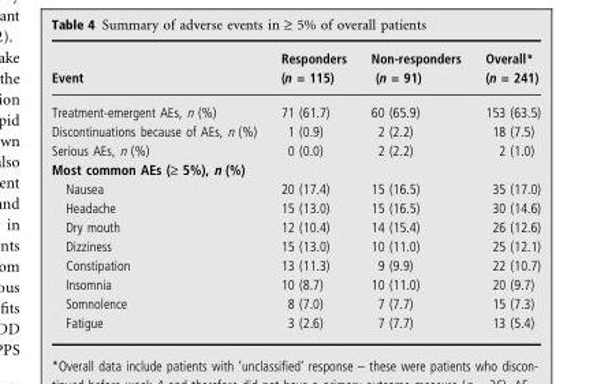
<table><thead><tr><td>Event</td><td>Responders (n = 115)</td><td>Non-responders (n = 91)</td><td>Overall* (n = 241)</td></tr></thead><tbody><tr><td>Treatment-emergent AEs, n (%)</td><td>71 (61.7)</td><td>60 (65.9)</td><td>153 (63.5)</td></tr><tr><td>Discontinuations because of AEs, n (%)</td><td>1 (0.9)</td><td>2 (2.2)</td><td>18 (7.5)</td></tr><tr><td>Serious AEs, n (%)</td><td>0 (0.0)</td><td>2 (2.2)</td><td>2 (1.0)</td></tr><tr><td colspan="4">Most common AEs (‡ 5%), n (%)</td></tr><tr><td>Nausea</td><td>20 (17.4)</td><td>15 (16.5)</td><td>35 (17.0)</td></tr><tr><td>Headache</td><td>15 (13.0)</td><td>15 (16.5)</td><td>30 (14.6)</td></tr><tr><td>Dry mouth</td><td>12 (10.4)</td><td>14 (15.4)</td><td>26 (12.6)</td></tr><tr><td>Dizziness</td><td>15 (13.0)</td><td>10 (11.0)</td><td>25 (12.1)</td></tr><tr><td>Constipation</td><td>13 (11.3)</td><td>9 (9.9)</td><td>22 (10.7)</td></tr><tr><td>Insomnia</td><td>10 (8.7)</td><td>10 (11.0)</td><td>20 (9.7)</td></tr><tr><td>Somnolence</td><td>8 (7.0)</td><td>7 (7.7)</td><td>15 (7.3)</td></tr><tr><td>Fatigue</td><td>3 (2.6)</td><td>7 (7.7)</td><td>13 (5.4)</td></tr></tbody></table>